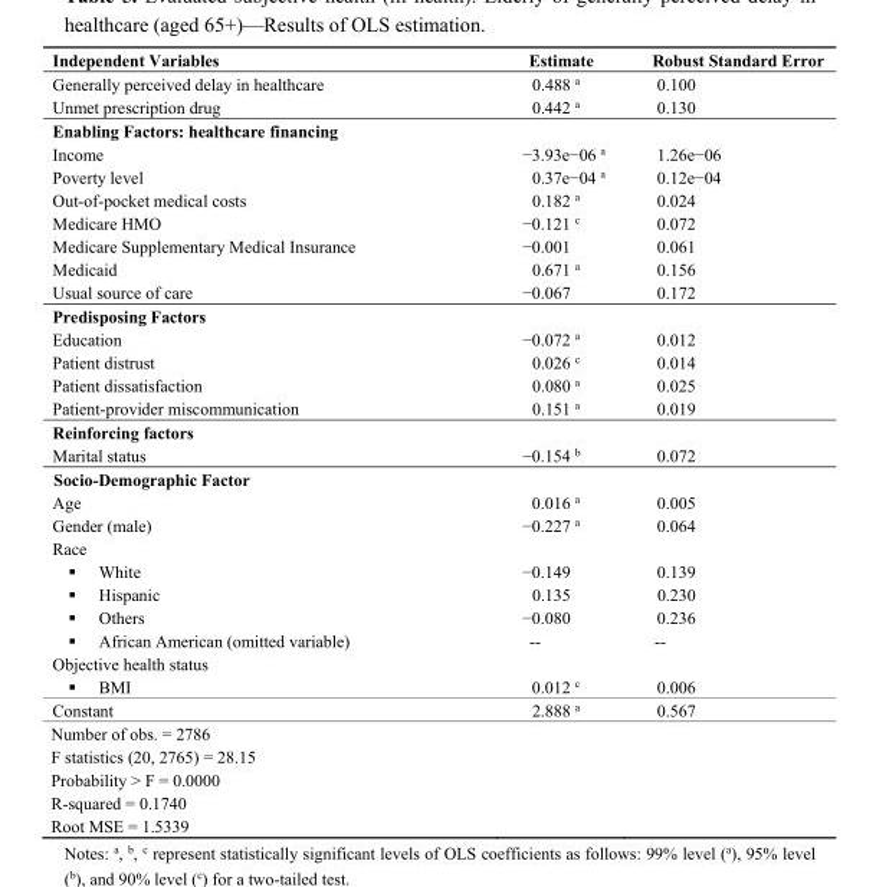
<table><thead><tr><td>Independent Variables</td><td>Estimate</td><td>Robust Standard Error</td></tr></thead><tbody><tr><td>Generally perceived delay in healthcare</td><td>0.488 <sup>a</sup></td><td>0.100</td></tr><tr><td>Unmet prescription drug</td><td>0.442 <sup>a</sup></td><td>0.130</td></tr><tr><td colspan="3">Enabling Factors: healthcare financing</td></tr><tr><td>Income</td><td>−3.93e−06 <sup>a</sup></td><td>1.26e−06</td></tr><tr><td>Poverty level</td><td>0.37e−04 <sup>a</sup></td><td>0.12e−04</td></tr><tr><td>Out-of-pocket medical costs</td><td>0.182 <sup>a</sup></td><td>0.024</td></tr><tr><td>Medicare HMO</td><td>−0.121 <sup>c</sup></td><td>0.072</td></tr><tr><td>Medicare Supplementary Medical Insurance</td><td>−0.001</td><td>0.061</td></tr><tr><td>Medicaid</td><td>0.671 <sup>a</sup></td><td>0.156</td></tr><tr><td>Usual source of care</td><td>−0.067</td><td>0.172</td></tr><tr><td colspan="3">Predisposing Factors</td></tr><tr><td>Education</td><td>−0.072 <sup>a</sup></td><td>0.012</td></tr><tr><td>Patient distrust</td><td>0.026 <sup>c</sup></td><td>0.014</td></tr><tr><td>Patient dissatisfaction</td><td>0.080 <sup>a</sup></td><td>0.025</td></tr><tr><td>Patient-provider miscommunication</td><td>0.151 <sup>a</sup></td><td>0.019</td></tr><tr><td colspan="3">Reinforcing factors</td></tr><tr><td>Marital status</td><td>−0.154 <sup>b</sup></td><td>0.072</td></tr><tr><td colspan="3">Socio-Demographic Factor</td></tr><tr><td>Age</td><td>0.016 <sup>a</sup></td><td>0.005</td></tr><tr><td>Gender (male)</td><td>−0.227 <sup>a</sup></td><td>0.064</td></tr><tr><td colspan="3">Race</td></tr><tr><td>▪ White</td><td>−0.149</td><td>0.139</td></tr><tr><td>▪ Hispanic</td><td>0.135</td><td>0.230</td></tr><tr><td>▪ Others</td><td>−0.080</td><td>0.236</td></tr><tr><td>▪ African American (omitted variable)</td><td>--</td><td>--</td></tr><tr><td colspan="3">Objective health status</td></tr><tr><td>▪ BMI</td><td>0.012 <sup>c</sup></td><td>0.006</td></tr><tr><td>Constant</td><td>2.888 <sup>a</sup></td><td>0.567</td></tr><tr><td colspan="3">Number of obs. = 2786</td></tr><tr><td colspan="3">F statistics (20, 2765) = 28.15</td></tr><tr><td colspan="3">Probability &gt; F = 0.0000</td></tr><tr><td colspan="3">R-squared = 0.1740</td></tr><tr><td>Root MSE = 1.5339</td><td></td><td></td></tr></tbody></table>